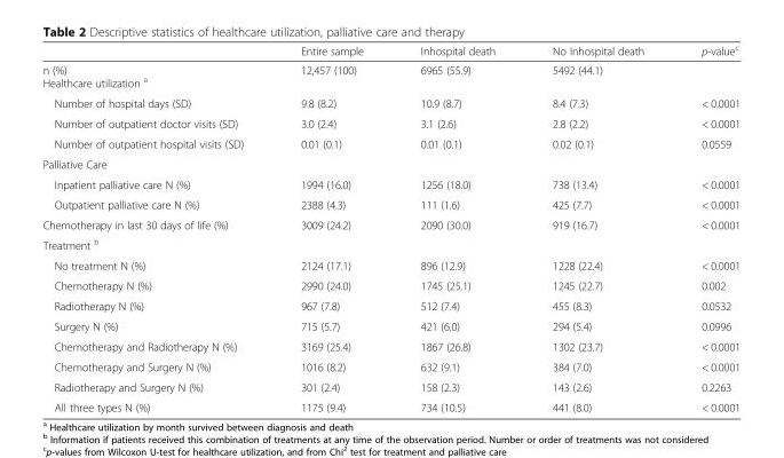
<table><thead><tr><td></td><td>Entire sample</td><td>Inhospital death</td><td>No Inhospital death</td><td>p-value<sup>c</sup></td></tr></thead><tbody><tr><td>n (%) Healthcare utilization <sup>a</sup></td><td>12,457 (100)</td><td>6965 (55.9)</td><td>5492 (44.1)</td><td></td></tr><tr><td>Number of hospital days (SD)</td><td>9.8 (8.2)</td><td>10.9 (8.7)</td><td>8.4 (7.3)</td><td>&lt; 0.0001</td></tr><tr><td>Number of outpatient doctor visits (SD)</td><td>3.0 (2.4)</td><td>3.1 (2.6)</td><td>2.8 (2.2)</td><td>&lt; 0.0001</td></tr><tr><td>Number of outpatient hospital visits (SD)</td><td>0.01 (0.1)</td><td>0.01 (0.1)</td><td>0.02 (0.1)</td><td>0.0559</td></tr><tr><td colspan="5">Palliative Care</td></tr><tr><td>Inpatient palliative care N (%)</td><td>1994 (16.0)</td><td>1256 (18.0)</td><td>738 (13.4)</td><td>&lt; 0.0001</td></tr><tr><td>Outpatient palliative care N (%)</td><td>2388 (4.3)</td><td>111 (1.6)</td><td>425 (7.7)</td><td>&lt; 0.0001</td></tr><tr><td>Chemotherapy in last 30 days of life (%)</td><td>3009 (24.2)</td><td>2090 (30.0)</td><td>919 (16.7)</td><td>&lt; 0.0001</td></tr><tr><td colspan="5">Treatment <sup>b</sup></td></tr><tr><td>No treatment N (%)</td><td>2124 (17.1)</td><td>896 (12.9)</td><td>1228 (22.4)</td><td>&lt; 0.0001</td></tr><tr><td>Chemotherapy N (%)</td><td>2990 (24.0)</td><td>1745 (25.1)</td><td>1245 (22.7)</td><td>0.002</td></tr><tr><td>Radiotherapy N (%)</td><td>967 (7.8)</td><td>512 (7.4)</td><td>455 (8.3)</td><td>0.0532</td></tr><tr><td>Surgery N (%)</td><td>715 (5.7)</td><td>421 (6.0)</td><td>294 (5.4)</td><td>0.0996</td></tr><tr><td>Chemotherapy and Radiotherapy N (%)</td><td>3169 (25.4)</td><td>1867 (26.8)</td><td>1302 (23.7)</td><td>&lt; 0.0001</td></tr><tr><td>Chemotherapy and Surgery N (%)</td><td>1016 (8.2)</td><td>632 (9.1)</td><td>384 (7.0)</td><td>&lt; 0.0001</td></tr><tr><td>Radiotherapy and Surgery N (%)</td><td>301 (2.4)</td><td>158 (2.3)</td><td>143 (2.6)</td><td>0.2263</td></tr><tr><td>All three types N (%)</td><td>1175 (9.4)</td><td>734 (10.5)</td><td>441 (8.0)</td><td>&lt; 0.0001</td></tr></tbody></table>